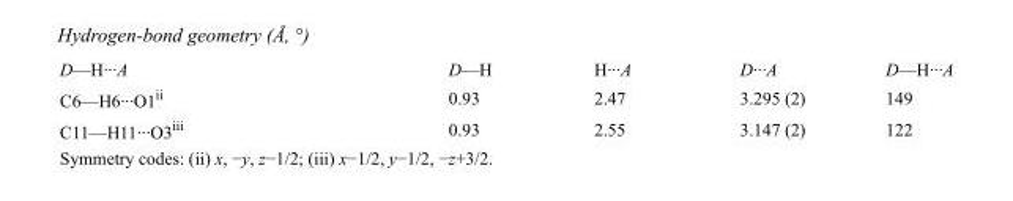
<table><tbody><tr><td>D—H···A</td><td>D—H</td><td>H···A</td><td>D···A</td><td>D—H···A</td></tr><tr><td>C6—H6···O1<sup>ii</sup></td><td>0.93</td><td>2.47</td><td>3.295 (2)</td><td>149</td></tr><tr><td>C11—H11···O3<sup>iii</sup></td><td>0.93</td><td>2.55</td><td>3.147 (2)</td><td>122</td></tr></tbody></table>